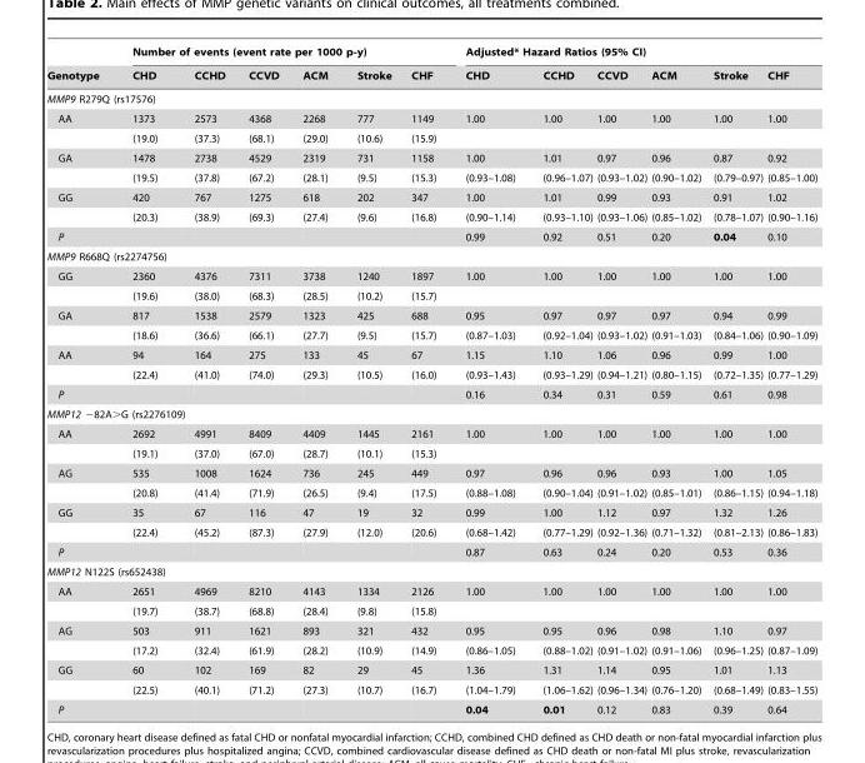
<table><thead><tr><td rowspan="2">Genotype</td><td colspan="6">Number of events (event rate per 1000 p-y)</td><td colspan="6">Adjusted* Hazard Ratios (95% CI)</td></tr><tr><td>CHD</td><td>CCHD</td><td>CCVD</td><td>ACM</td><td>Stroke</td><td>CHF</td><td>CHD</td><td>CCHD</td><td>CCVD</td><td>ACM</td><td>Stroke</td><td>CHF</td></tr></thead><tbody><tr><td colspan="13">MMP9 R279Q (rs17576)</td></tr><tr><td rowspan="2">AA</td><td>1373</td><td>2573</td><td>4368</td><td>2268</td><td>777</td><td>1149</td><td>1.00</td><td>1.00</td><td>1.00</td><td>1.00</td><td>1.00</td><td>1.00</td></tr><tr><td>(19.0)</td><td>(37.3)</td><td>(68.1)</td><td>(29.0)</td><td>(10.6)</td><td>(15.9)</td><td></td><td></td><td></td><td></td><td></td><td></td></tr><tr><td rowspan="2">GA</td><td>1478</td><td>2738</td><td>4529</td><td>2319</td><td>731</td><td>1158</td><td>1.00</td><td>1.01</td><td>0.97</td><td>0.96</td><td>0.87</td><td>0.92</td></tr><tr><td>(19.5)</td><td>(37.8)</td><td>(67.2)</td><td>(28.1)</td><td>(9.5)</td><td>(15.3)</td><td>(0.93–1.08)</td><td>(0.96–1.07)</td><td>(0.93–1.02)</td><td>(0.90–1.02)</td><td>(0.79–0.97)</td><td>(0.85–1.00)</td></tr><tr><td rowspan="2">GG</td><td>420</td><td>767</td><td>1275</td><td>618</td><td>202</td><td>347</td><td>1.00</td><td>1.01</td><td>0.99</td><td>0.93</td><td>0.91</td><td>1.02</td></tr><tr><td>(20.3)</td><td>(38.9)</td><td>(69.3)</td><td>(27.4)</td><td>(9.6)</td><td>(16.8)</td><td>(0.90–1.14)</td><td>(0.93–1.10)</td><td>(0.93–1.06)</td><td>(0.85–1.02)</td><td>(0.78–1.07)</td><td>(0.90–1.16)</td></tr><tr><td>P</td><td></td><td></td><td></td><td></td><td></td><td></td><td>0.99</td><td>0.92</td><td>0.51</td><td>0.20</td><td>0.04</td><td>0.10</td></tr><tr><td colspan="13">MMP9 R668Q (rs2274756)</td></tr><tr><td rowspan="2">GG</td><td>2360</td><td>4376</td><td>7311</td><td>3738</td><td>1240</td><td>1897</td><td>1.00</td><td>1.00</td><td>1.00</td><td>1.00</td><td>1.00</td><td>1.00</td></tr><tr><td>(19.6)</td><td>(38.0)</td><td>(68.3)</td><td>(28.5)</td><td>(10.2)</td><td>(15.7)</td><td></td><td></td><td></td><td></td><td></td><td></td></tr><tr><td rowspan="2">GA</td><td>817</td><td>1538</td><td>2579</td><td>1323</td><td>425</td><td>688</td><td>0.95</td><td>0.97</td><td>0.97</td><td>0.97</td><td>0.94</td><td>0.99</td></tr><tr><td>(18.6)</td><td>(36.6)</td><td>(66.1)</td><td>(27.7)</td><td>(9.5)</td><td>(15.7)</td><td>(0.87–1.03)</td><td>(0.92–1.04)</td><td>(0.93–1.02)</td><td>(0.91–1.03)</td><td>(0.84–1.06)</td><td>(0.90–1.09)</td></tr><tr><td rowspan="2">AA</td><td>94</td><td>164</td><td>275</td><td>133</td><td>45</td><td>67</td><td>1.15</td><td>1.10</td><td>1.06</td><td>0.96</td><td>0.99</td><td>1.00</td></tr><tr><td>(22.4)</td><td>(41.0)</td><td>(74.0)</td><td>(29.3)</td><td>(10.5)</td><td>(16.0)</td><td>(0.93–1.43)</td><td>(0.93–1.29)</td><td>(0.94–1.21)</td><td>(0.80–1.15)</td><td>(0.72–1.35)</td><td>(0.77–1.29)</td></tr><tr><td>P</td><td></td><td></td><td></td><td></td><td></td><td></td><td>0.16</td><td>0.34</td><td>0.31</td><td>0.59</td><td>0.61</td><td>0.98</td></tr><tr><td colspan="13">MMP12 −82A&gt;G (rs2276109)</td></tr><tr><td rowspan="2">AA</td><td>2692</td><td>4991</td><td>8409</td><td>4409</td><td>1445</td><td>2161</td><td>1.00</td><td>1.00</td><td>1.00</td><td>1.00</td><td>1.00</td><td>1.00</td></tr><tr><td>(19.1)</td><td>(37.0)</td><td>(67.0)</td><td>(28.7)</td><td>(10.1)</td><td>(15.3)</td><td></td><td></td><td></td><td></td><td></td><td></td></tr><tr><td rowspan="2">AG</td><td>535</td><td>1008</td><td>1624</td><td>736</td><td>245</td><td>449</td><td>0.97</td><td>0.96</td><td>0.96</td><td>0.93</td><td>1.00</td><td>1.05</td></tr><tr><td>(20.8)</td><td>(41.4)</td><td>(71.9)</td><td>(26.5)</td><td>(9.4)</td><td>(17.5)</td><td>(0.88–1.08)</td><td>(0.90–1.04)</td><td>(0.91–1.02)</td><td>(0.85–1.01)</td><td>(0.86–1.15)</td><td>(0.94–1.18)</td></tr><tr><td rowspan="2">GG</td><td>35</td><td>67</td><td>116</td><td>47</td><td>19</td><td>32</td><td>0.99</td><td>1.00</td><td>1.12</td><td>0.97</td><td>1.32</td><td>1.26</td></tr><tr><td>(22.4)</td><td>(45.2)</td><td>(87.3)</td><td>(27.9)</td><td>(12.0)</td><td>(20.6)</td><td>(0.68–1.42)</td><td>(0.77–1.29)</td><td>(0.92–1.36)</td><td>(0.71–1.32)</td><td>(0.81–2.13)</td><td>(0.86–1.83)</td></tr><tr><td>P</td><td></td><td></td><td></td><td></td><td></td><td></td><td>0.87</td><td>0.63</td><td>0.24</td><td>0.20</td><td>0.53</td><td>0.36</td></tr><tr><td colspan="13">MMP12 N122S (rs652438)</td></tr><tr><td rowspan="2">AA</td><td>2651</td><td>4969</td><td>8210</td><td>4143</td><td>1334</td><td>2126</td><td>1.00</td><td>1.00</td><td>1.00</td><td>1.00</td><td>1.00</td><td>1.00</td></tr><tr><td>(19.7)</td><td>(38.7)</td><td>(68.8)</td><td>(28.4)</td><td>(9.8)</td><td>(15.8)</td><td></td><td></td><td></td><td></td><td></td><td></td></tr><tr><td rowspan="2">AG</td><td>503</td><td>911</td><td>1621</td><td>893</td><td>321</td><td>432</td><td>0.95</td><td>0.95</td><td>0.96</td><td>0.98</td><td>1.10</td><td>0.97</td></tr><tr><td>(17.2)</td><td>(32.4)</td><td>(61.9)</td><td>(28.2)</td><td>(10.9)</td><td>(14.9)</td><td>(0.86–1.05)</td><td>(0.88–1.02)</td><td>(0.91–1.02)</td><td>(0.91–1.06)</td><td>(0.96–1.25)</td><td>(0.87–1.09)</td></tr><tr><td rowspan="2">GG</td><td>60</td><td>102</td><td>169</td><td>82</td><td>29</td><td>45</td><td>1.36</td><td>1.31</td><td>1.14</td><td>0.95</td><td>1.01</td><td>1.13</td></tr><tr><td>(22.5)</td><td>(40.1)</td><td>(71.2)</td><td>(27.3)</td><td>(10.7)</td><td>(16.7)</td><td>(1.04–1.79)</td><td>(1.06–1.62)</td><td>(0.96–1.34)</td><td>(0.76–1.20)</td><td>(0.68–1.49)</td><td>(0.83–1.55)</td></tr><tr><td>P</td><td></td><td></td><td></td><td></td><td></td><td></td><td>0.04</td><td>0.01</td><td>0.12</td><td>0.83</td><td>0.39</td><td>0.64</td></tr></tbody></table>